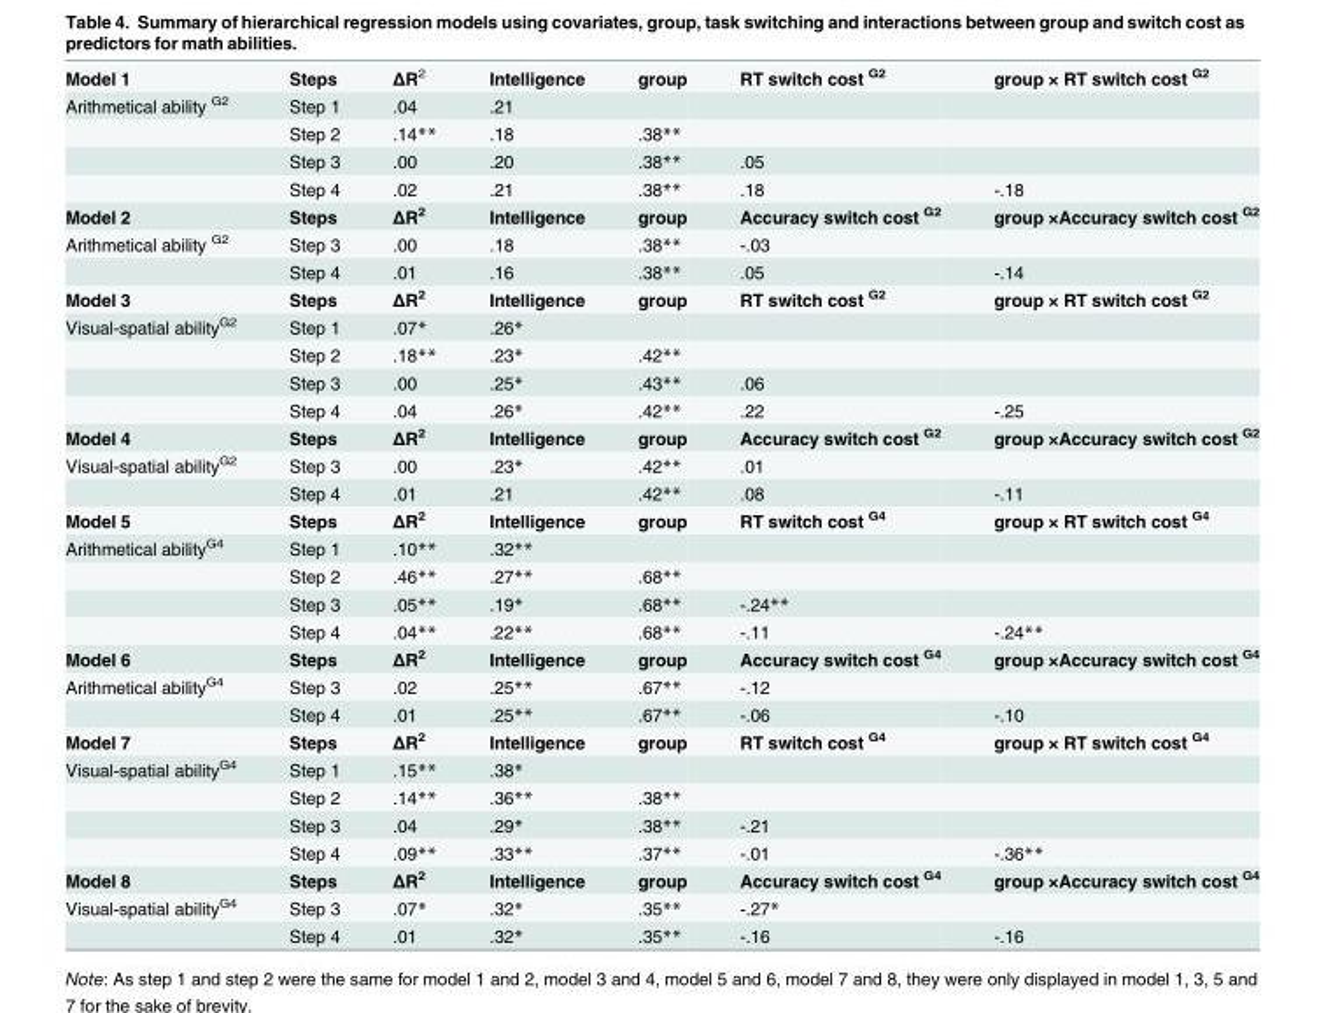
<table><tbody><tr><td>Model 1</td><td>Steps</td><td>ΔR<sup>2</sup></td><td>Intelligence</td><td>group</td><td>RT switch cost <sup>G2</sup></td><td>group × RT switch cost <sup>G2</sup></td></tr><tr><td rowspan="4">Arithmetical ability <sup>G2</sup></td><td>Step 1</td><td>.04</td><td>.21</td><td></td><td></td><td></td></tr><tr><td>Step 2</td><td>.14**</td><td>.18</td><td>.38**</td><td></td><td></td></tr><tr><td>Step 3</td><td>.00</td><td>.20</td><td>.38**</td><td>.05</td><td></td></tr><tr><td>Step 4</td><td>.02</td><td>.21</td><td>.38**</td><td>.18</td><td>-.18</td></tr><tr><td>Model 2</td><td>Steps</td><td>ΔR<sup>2</sup></td><td>Intelligence</td><td>group</td><td>Accuracy switch cost <sup>G2</sup></td><td>group ×Accuracy switch cost <sup>G2</sup></td></tr><tr><td rowspan="2">Arithmetical ability <sup>G2</sup></td><td>Step 3</td><td>.00</td><td>.18</td><td>.38**</td><td>-.03</td><td></td></tr><tr><td>Step 4</td><td>.01</td><td>.16</td><td>.38**</td><td>.05</td><td>-.14</td></tr><tr><td>Model 3</td><td>Steps</td><td>ΔR<sup>2</sup></td><td>Intelligence</td><td>group</td><td>RT switch cost <sup>G2</sup></td><td>group × RT switch cost <sup>G2</sup></td></tr><tr><td rowspan="4">Visual-spatial ability<sup>G2</sup></td><td>Step 1</td><td>.07*</td><td>.26*</td><td></td><td></td><td></td></tr><tr><td>Step 2</td><td>.18**</td><td>.23*</td><td>.42**</td><td></td><td></td></tr><tr><td>Step 3</td><td>.00</td><td>.25*</td><td>.43**</td><td>.06</td><td></td></tr><tr><td>Step 4</td><td>.04</td><td>.26*</td><td>.42**</td><td>.22</td><td>-.25</td></tr><tr><td>Model 4</td><td>Steps</td><td>ΔR<sup>2</sup></td><td>Intelligence</td><td>group</td><td>Accuracy switch cost <sup>G2</sup></td><td>group ×Accuracy switch cost <sup>G2</sup></td></tr><tr><td rowspan="2">Visual-spatial ability<sup>G2</sup></td><td>Step 3</td><td>.00</td><td>.23*</td><td>.42**</td><td>.01</td><td></td></tr><tr><td>Step 4</td><td>.01</td><td>.21</td><td>.42**</td><td>.08</td><td>-.11</td></tr><tr><td>Model 5</td><td>Steps</td><td>ΔR<sup>2</sup></td><td>Intelligence</td><td>group</td><td>RT switch cost <sup>G4</sup></td><td>group × RT switch cost <sup>G4</sup></td></tr><tr><td rowspan="4">Arithmetical ability<sup>G4</sup></td><td>Step 1</td><td>.10**</td><td>.32**</td><td></td><td></td><td></td></tr><tr><td>Step 2</td><td>.46**</td><td>.27**</td><td>.68**</td><td></td><td></td></tr><tr><td>Step 3</td><td>.05**</td><td>.19*</td><td>.68**</td><td>-.24**</td><td></td></tr><tr><td>Step 4</td><td>.04**</td><td>.22**</td><td>.68**</td><td>-.11</td><td>-.24**</td></tr><tr><td>Model 6</td><td>Steps</td><td>ΔR<sup>2</sup></td><td>Intelligence</td><td>group</td><td>Accuracy switch cost <sup>G4</sup></td><td>group ×Accuracy switch cost <sup>G4</sup></td></tr><tr><td rowspan="2">Arithmetical ability<sup>G4</sup></td><td>Step 3</td><td>.02</td><td>.25**</td><td>.67**</td><td>-.12</td><td></td></tr><tr><td>Step 4</td><td>.01</td><td>.25**</td><td>.67**</td><td>-.06</td><td>-.10</td></tr><tr><td>Model 7</td><td>Steps</td><td>ΔR<sup>2</sup></td><td>Intelligence</td><td>group</td><td>RT switch cost <sup>G4</sup></td><td>group × RT switch cost <sup>G4</sup></td></tr><tr><td rowspan="4">Visual-spatial ability<sup>G4</sup></td><td>Step 1</td><td>.15**</td><td>.38*</td><td></td><td></td><td></td></tr><tr><td>Step 2</td><td>.14**</td><td>.36**</td><td>.38**</td><td></td><td></td></tr><tr><td>Step 3</td><td>.04</td><td>.29*</td><td>.38**</td><td>-.21</td><td></td></tr><tr><td>Step 4</td><td>.09**</td><td>.33**</td><td>.37**</td><td>-.01</td><td>-.36**</td></tr><tr><td>Model 8</td><td>Steps</td><td>ΔR<sup>2</sup></td><td>Intelligence</td><td>group</td><td>Accuracy switch cost <sup>G4</sup></td><td>group ×Accuracy switch cost <sup>G4</sup></td></tr><tr><td rowspan="2">Visual-spatial ability<sup>G4</sup></td><td>Step 3</td><td>.07*</td><td>.32*</td><td>.35**</td><td>-.27*</td><td></td></tr><tr><td>Step 4</td><td>.01</td><td>.32*</td><td>.35**</td><td>-.16</td><td>-.16</td></tr></tbody></table>